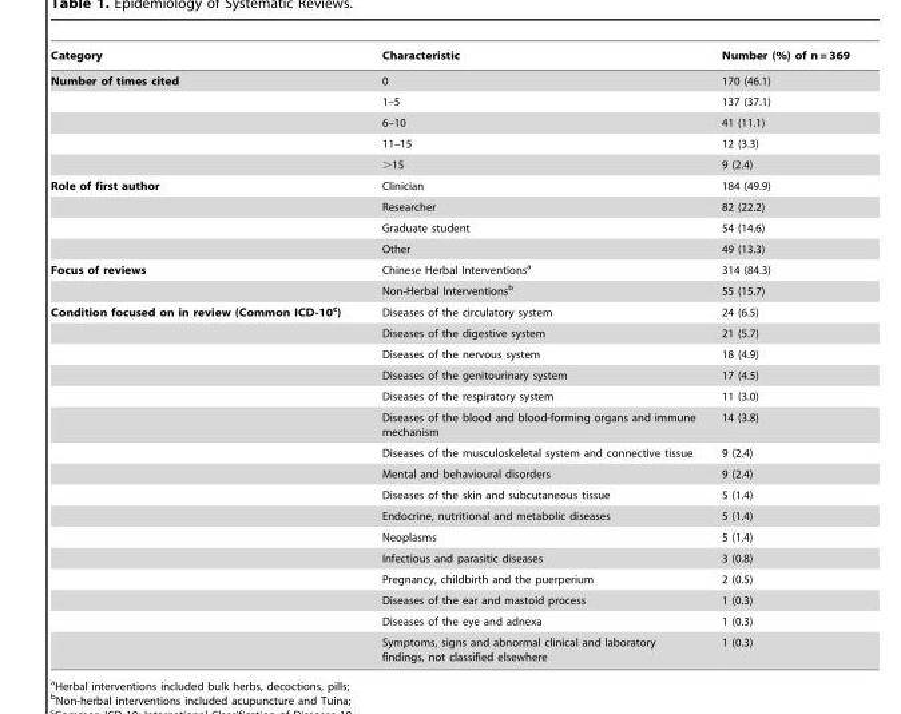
<table><thead><tr><td>Category</td><td>Characteristic</td><td>Number (%) of n = 369</td></tr></thead><tbody><tr><td rowspan="5">Number of times cited</td><td>0</td><td>170 (46.1)</td></tr><tr><td>1–5</td><td>137 (37.1)</td></tr><tr><td>6–10</td><td>41 (11.1)</td></tr><tr><td>11–15</td><td>12 (3.3)</td></tr><tr><td>&gt;15</td><td>9 (2.4)</td></tr><tr><td rowspan="4">Role of first author</td><td>Clinician</td><td>184 (49.9)</td></tr><tr><td>Researcher</td><td>82 (22.2)</td></tr><tr><td>Graduate student</td><td>54 (14.6)</td></tr><tr><td>Other</td><td>49 (13.3)</td></tr><tr><td rowspan="2">Focus of reviews</td><td>Chinese Herbal Interventions<sup>a</sup></td><td>314 (84.3)</td></tr><tr><td>Non-Herbal Interventions<sup>b</sup></td><td>55 (15.7)</td></tr><tr><td rowspan="16">Condition focused on in review (Common ICD-10<sup>c</sup>)</td><td>Diseases of the circulatory system</td><td>24 (6.5)</td></tr><tr><td>Diseases of the digestive system</td><td>21 (5.7)</td></tr><tr><td>Diseases of the nervous system</td><td>18 (4.9)</td></tr><tr><td>Diseases of the genitourinary system</td><td>17 (4.5)</td></tr><tr><td>Diseases of the respiratory system</td><td>11 (3.0)</td></tr><tr><td>Diseases of the blood and blood-forming organs and immune mechanism</td><td>14 (3.8)</td></tr><tr><td>Diseases of the musculoskeletal system and connective tissue</td><td>9 (2.4)</td></tr><tr><td>Mental and behavioural disorders</td><td>9 (2.4)</td></tr><tr><td>Diseases of the skin and subcutaneous tissue</td><td>5 (1.4)</td></tr><tr><td>Endocrine, nutritional and metabolic diseases</td><td>5 (1.4)</td></tr><tr><td>Neoplasms</td><td>5 (1.4)</td></tr><tr><td>Infectious and parasitic diseases</td><td>3 (0.8)</td></tr><tr><td>Pregnancy, childbirth and the puerperium</td><td>2 (0.5)</td></tr><tr><td>Diseases of the ear and mastoid process</td><td>1 (0.3)</td></tr><tr><td>Diseases of the eye and adnexa</td><td>1 (0.3)</td></tr><tr><td>Symptoms, signs and abnormal clinical and laboratory findings, not classified elsewhere</td><td>1 (0.3)</td></tr></tbody></table>